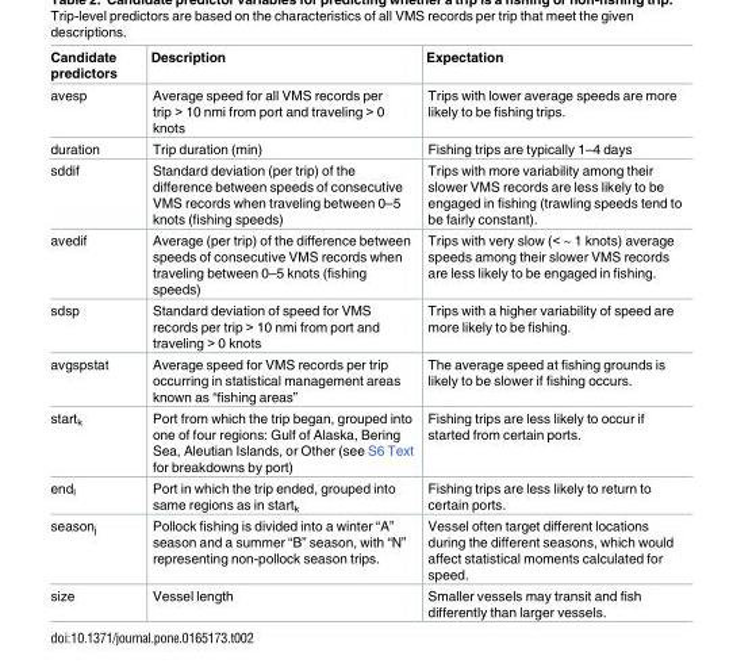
<table><thead><tr><td>Candidate predictors</td><td>Description</td><td>Expectation</td></tr></thead><tbody><tr><td>avesp</td><td>Average speed for all VMS records per trip &gt; 10 nmi from port and traveling &gt; 0 knots</td><td>Trips with lower average speeds are more likely to be fishing trips.</td></tr><tr><td>duration</td><td>Trip duration (min)</td><td>Fishing trips are typically 1–4 days</td></tr><tr><td>sddif</td><td>Standard deviation (per trip) of the difference between speeds of consecutive VMS records when traveling between 0–5 knots (fishing speeds)</td><td>Trips with more variability among their slower VMS records are less likely to be engaged in fishing (trawling speeds tend to be fairly constant).</td></tr><tr><td>avedif</td><td>Average (per trip) of the difference between speeds of consecutive VMS records when traveling between 0–5 knots (fishing speeds)</td><td>Trips with very slow (&lt; ~ 1 knots) average speeds among their slower VMS records are less likely to be engaged in fishing.</td></tr><tr><td>sdsp</td><td>Standard deviation of speed for VMS records per trip &gt; 10 nmi from port and traveling &gt; 0 knots</td><td>Trips with a higher variability of speed are more likely to be fishing.</td></tr><tr><td>avgspstat</td><td>Average speed for VMS records per trip occurring in statistical management areas known as “fishing areas”</td><td>The average speed at fishing grounds is likely to be slower if fishing occurs.</td></tr><tr><td>start<sub>k</sub></td><td>Port from which the trip began, grouped into one of four regions: Gulf of Alaska, Bering Sea, Aleutian Islands, or Other (see S6 Text for breakdowns by port)</td><td>Fishing trips are less likely to occur if started from certain ports.</td></tr><tr><td>end<sub>l</sub></td><td>Port in which the trip ended, grouped into same regions as in start<sub>k</sub></td><td>Fishing trips are less likely to return to certain ports.</td></tr><tr><td>season<sub>j</sub></td><td>Pollock fishing is divided into a winter “A” season and a summer “B” season, with “N” representing non-pollock season trips.</td><td>Vessel often target different locations during the different seasons, which would affect statistical moments calculated for speed.</td></tr><tr><td>size</td><td>Vessel length</td><td>Smaller vessels may transit and fish differently than larger vessels.</td></tr></tbody></table>